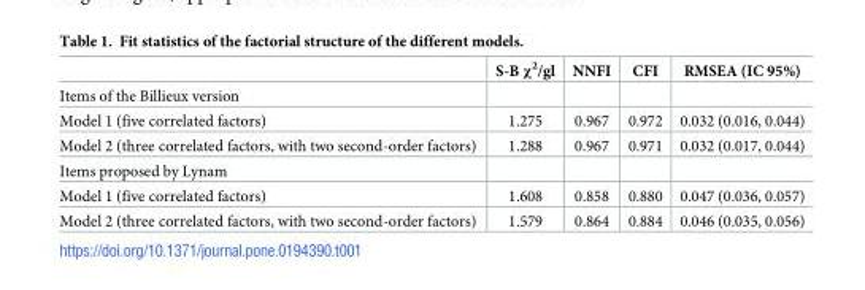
<table><thead><tr><td></td><td>S-B χ<sup>2</sup>/gl</td><td>NNFI</td><td>CFI</td><td>RMSEA (IC 95%)</td></tr></thead><tbody><tr><td colspan="5">Items of the Billieux version</td></tr><tr><td>Model 1 (five correlated factors)</td><td>1.275</td><td>0.967</td><td>0.972</td><td>0.032 (0.016, 0.044)</td></tr><tr><td>Model 2 (three correlated factors, with two second-order factors)</td><td>1.288</td><td>0.967</td><td>0.971</td><td>0.032 (0.017, 0.044)</td></tr><tr><td colspan="5">Items proposed by Lynam</td></tr><tr><td>Model 1 (five correlated factors)</td><td>1.608</td><td>0.858</td><td>0.880</td><td>0.047 (0.036, 0.057)</td></tr><tr><td>Model 2 (three correlated factors, with two second-order factors)</td><td>1.579</td><td>0.864</td><td>0.884</td><td>0.046 (0.035, 0.056)</td></tr></tbody></table>